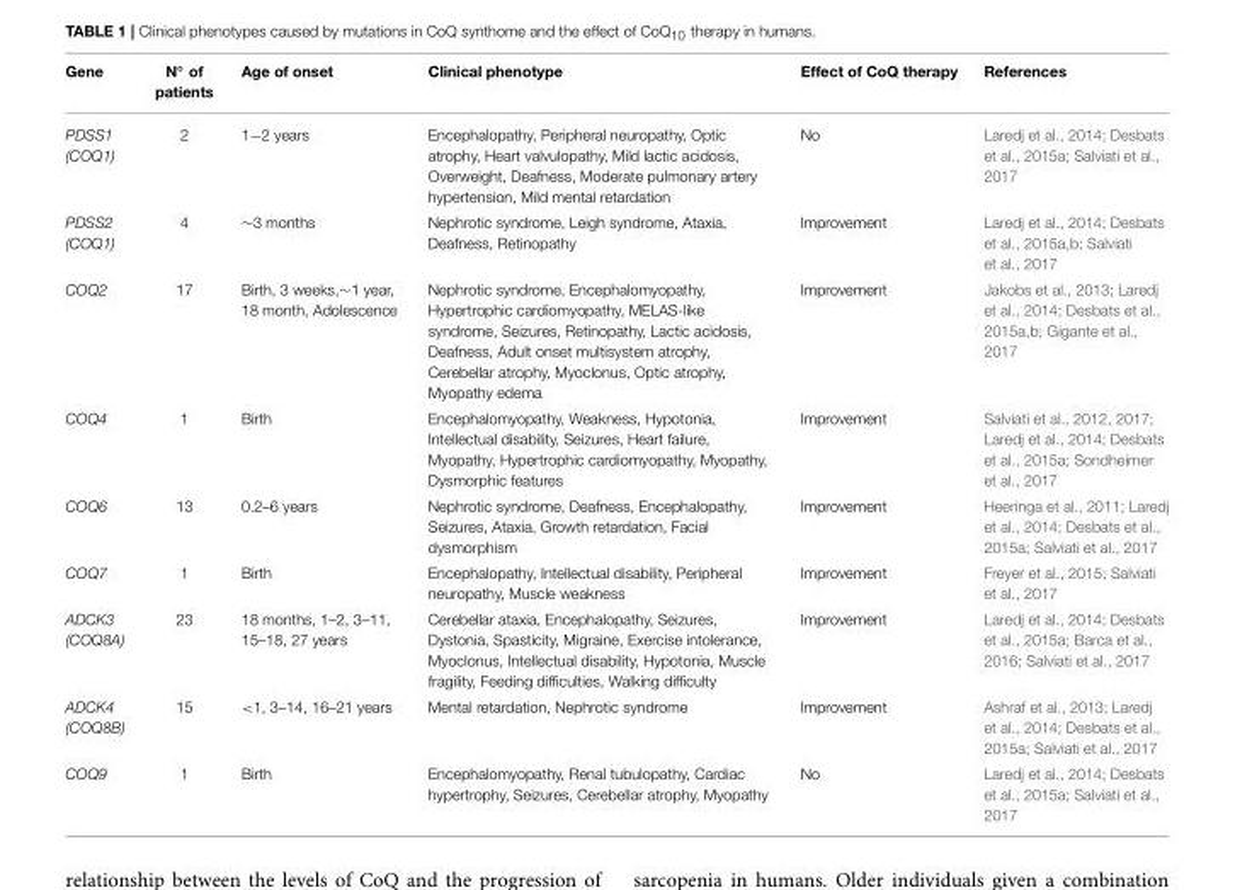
<table><thead><tr><td>Gene</td><td>N◦ of patients</td><td>Age of onset</td><td>Clinical phenotype</td><td>Effect of CoQ therapy</td><td>References</td></tr></thead><tbody><tr><td>PDSS1 (COQ1)</td><td>2</td><td>1−2 years</td><td>Encephalopathy, Peripheral neuropathy, Optic atrophy, Heart valvulopathy, Mild lactic acidosis, Overweight, Deafness, Moderate pulmonary artery hypertension, Mild mental retardation</td><td>No</td><td>Laredj et al., 2014; Desbats et al., 2015a; Salviati et al., 2017</td></tr><tr><td>PDSS2 (COQ1)</td><td>4</td><td>∼3 months</td><td>Nephrotic syndrome, Leigh syndrome, Ataxia, Deafness, Retinopathy</td><td>Improvement</td><td>Laredj et al., 2014; Desbats et al., 2015a,b; Salviati et al., 2017</td></tr><tr><td>COQ2</td><td>17</td><td>Birth, 3 weeks,∼1 year, 18 month, Adolescence</td><td>Nephrotic syndrome, Encephalomyopathy, Hypertrophic cardiomyopathy, MELAS-like syndrome, Seizures, Retinopathy, Lactic acidosis, Deafness, Adult onset multisystem atrophy, Cerebellar atrophy, Myoclonus, Optic atrophy, Myopathy edema</td><td>Improvement</td><td>Jakobs et al., 2013; Laredj et al., 2014; Desbats et al., 2015a,b; Gigante et al., 2017</td></tr><tr><td>COQ4</td><td>1</td><td>Birth</td><td>Encephalomyopathy, Weakness, Hypotonia, Intellectual disability, Seizures, Heart failure, Myopathy, Hypertrophic cardiomyopathy, Myopathy, Dysmorphic features</td><td>Improvement</td><td>Salviati et al., 2012, 2017; Laredj et al., 2014; Desbats et al., 2015a; Sondheimer et al., 2017</td></tr><tr><td>COQ6</td><td>13</td><td>0.2–6 years</td><td>Nephrotic syndrome, Deafness, Encephalopathy, Seizures, Ataxia, Growth retardation, Facial dysmorphism</td><td>Improvement</td><td>Heeringa et al., 2011; Laredj et al., 2014; Desbats et al., 2015a; Salviati et al., 2017</td></tr><tr><td>COQ7</td><td>1</td><td>Birth</td><td>Encephalopathy, Intellectual disability, Peripheral neuropathy, Muscle weakness</td><td>Improvement</td><td>Freyer et al., 2015; Salviati et al., 2017</td></tr><tr><td>ADCK3 (COQ8A)</td><td>23</td><td>18 months, 1–2, 3–11, 15–18, 27 years</td><td>Cerebellar ataxia, Encephalopathy, Seizures, Dystonia, Spasticity, Migraine, Exercise intolerance, Myoclonus, Intellectual disability, Hypotonia, Muscle fragility, Feeding difficulties, Walking difficulty</td><td>Improvement</td><td>Laredj et al., 2014; Desbats et al., 2015a; Barca et al., 2016; Salviati et al., 2017</td></tr><tr><td>ADCK4 (COQ8B)</td><td>15</td><td>&lt;1, 3–14, 16–21 years</td><td>Mental retardation, Nephrotic syndrome</td><td>Improvement</td><td>Ashraf et al., 2013; Laredj et al., 2014; Desbats et al., 2015a; Salviati et al., 2017</td></tr><tr><td>COQ9</td><td>1</td><td>Birth</td><td>Encephalomyopathy, Renal tubulopathy, Cardiac hypertrophy, Seizures, Cerebellar atrophy, Myopathy</td><td>No</td><td>Laredj et al., 2014; Desbats et al., 2015a; Salviati et al., 2017</td></tr></tbody></table>